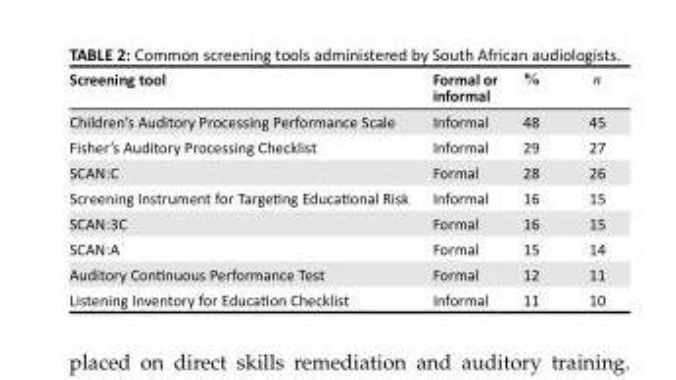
<table><thead><tr><td>Screening tool</td><td>Formal or informal</td><td>%</td><td>n</td></tr></thead><tbody><tr><td>Children’s Auditory Processing Performance Scale</td><td>Informal</td><td>48</td><td>45</td></tr><tr><td>Fisher’s Auditory Processing Checklist</td><td>Informal</td><td>29</td><td>27</td></tr><tr><td>SCAN:C</td><td>Formal</td><td>28</td><td>26</td></tr><tr><td>Screening Instrument for Targeting Educational Risk</td><td>Informal</td><td>16</td><td>15</td></tr><tr><td>SCAN:3C</td><td>Formal</td><td>16</td><td>15</td></tr><tr><td>SCAN:A</td><td>Formal</td><td>15</td><td>14</td></tr><tr><td>Auditory Continuous Performance Test</td><td>Formal</td><td>12</td><td>11</td></tr><tr><td>Listening Inventory for Education Checklist</td><td>Informal</td><td>11</td><td>10</td></tr></tbody></table>